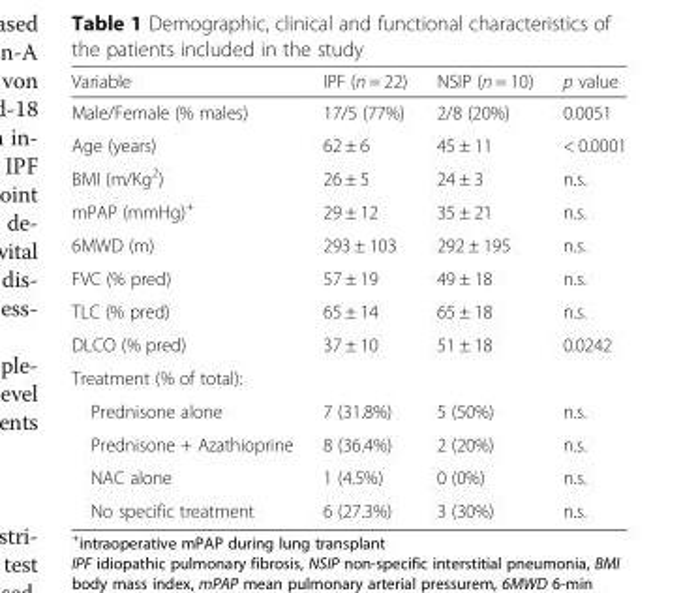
<table><thead><tr><td>Variable</td><td>IPF (n = 22)</td><td>NSIP (n = 10)</td><td>p value</td></tr></thead><tbody><tr><td>Male/Female (% males)</td><td>17/5 (77%)</td><td>2/8 (20%)</td><td>0.0051</td></tr><tr><td>Age (years)</td><td>62 ± 6</td><td>45 ± 11</td><td>&lt; 0.0001</td></tr><tr><td>BMI (m/Kg<sup>2</sup>)</td><td>26 ± 5</td><td>24 ± 3</td><td>n.s.</td></tr><tr><td>mPAP (mmHg)<sup>+</sup></td><td>29 ± 12</td><td>35 ± 21</td><td>n.s.</td></tr><tr><td>6MWD (m)</td><td>293 ± 103</td><td>292 ± 195</td><td>n.s.</td></tr><tr><td>FVC (% pred)</td><td>57 ± 19</td><td>49 ± 18</td><td>n.s.</td></tr><tr><td>TLC (% pred)</td><td>65 ± 14</td><td>65 ± 18</td><td>n.s.</td></tr><tr><td>DLCO (% pred)</td><td>37 ± 10</td><td>51 ± 18</td><td>0.0242</td></tr><tr><td colspan="4">Treatment (% of total):</td></tr><tr><td>Prednisone alone</td><td>7 (31.8%)</td><td>5 (50%)</td><td>n.s.</td></tr><tr><td>Prednisone + Azathioprine</td><td>8 (36.4%)</td><td>2 (20%)</td><td>n.s.</td></tr><tr><td>NAC alone</td><td>1 (4.5%)</td><td>0 (0%)</td><td>n.s.</td></tr><tr><td>No specific treatment</td><td>6 (27.3%)</td><td>3 (30%)</td><td>n.s.</td></tr></tbody></table>